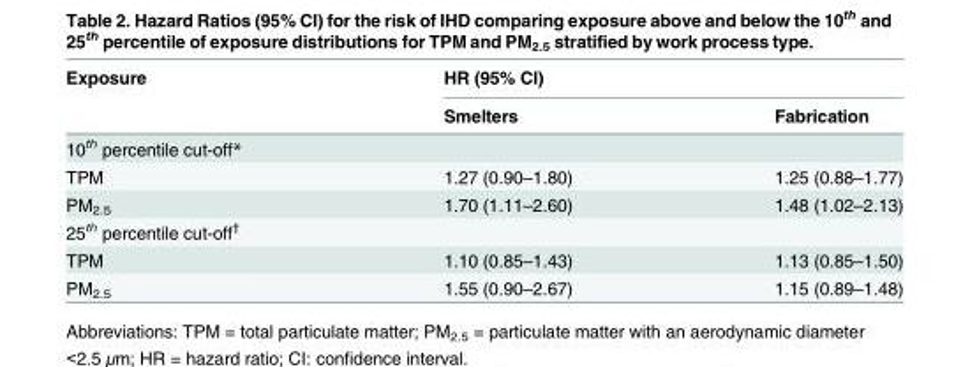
<table><thead><tr><td rowspan="2">Exposure</td><td colspan="2">HR (95% CI)</td></tr><tr><td>Smelters</td><td>Fabrication</td></tr></thead><tbody><tr><td colspan="3">10<sup>th</sup> percentile cut-off*</td></tr><tr><td>TPM</td><td>1.27 (0.90–1.80)</td><td>1.25 (0.88–1.77)</td></tr><tr><td>PM<sub>2.5</sub></td><td>1.70 (1.11–2.60)</td><td>1.48 (1.02–2.13)</td></tr><tr><td colspan="3">25<sup>th</sup> percentile cut-off<sup>†</sup></td></tr><tr><td>TPM</td><td>1.10 (0.85–1.43)</td><td>1.13 (0.85–1.50)</td></tr><tr><td>PM<sub>2.5</sub></td><td>1.55 (0.90–2.67)</td><td>1.15 (0.89–1.48)</td></tr></tbody></table>